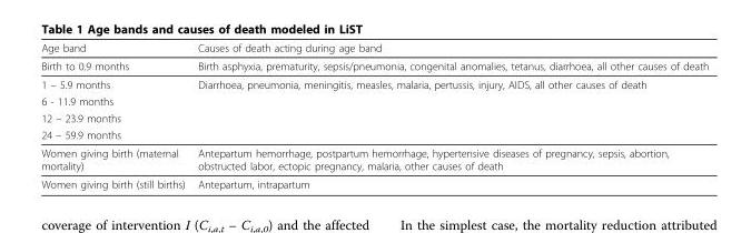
<table><thead><tr><td>Age band</td><td>Causes of death acting during age band</td></tr></thead><tbody><tr><td>Birth to 0.9 months</td><td>Birth asphyxia, prematurity, sepsis/pneumonia, congenital anomalies, tetanus, diarrhoea, all other causes of death</td></tr><tr><td>1 – 5.9 months</td><td>Diarrhoea, pneumonia, meningitis, measles, malaria, pertussis, injury, AIDS, all other causes of death</td></tr><tr><td colspan="2">6 - 11.9 months</td></tr><tr><td colspan="2">12 – 23.9 months</td></tr><tr><td colspan="2">24 – 59.9 months</td></tr><tr><td>Women giving birth (maternal mortality)</td><td>Antepartum hemorrhage, postpartum hemorrhage, hypertensive diseases of pregnancy, sepsis, abortion, obstructed labor, ectopic pregnancy, malaria, other causes of death</td></tr><tr><td>Women giving birth (still births)</td><td>Antepartum, intrapartum</td></tr></tbody></table>